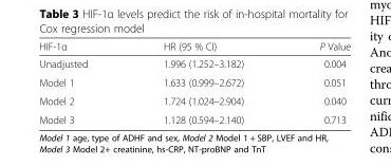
<table><thead><tr><td>HIF-1α</td><td>HR (95 % CI)</td><td>P Value</td></tr></thead><tbody><tr><td>Unadjusted</td><td>1.996 (1.252–3.182)</td><td>0.004</td></tr><tr><td>Model 1</td><td>1.633 (0.999–2.672)</td><td>0.051</td></tr><tr><td>Model 2</td><td>1.724 (1.024–2.904)</td><td>0.040</td></tr><tr><td>Model 3</td><td>1.128 (0.594–2.140)</td><td>0.713</td></tr></tbody></table>